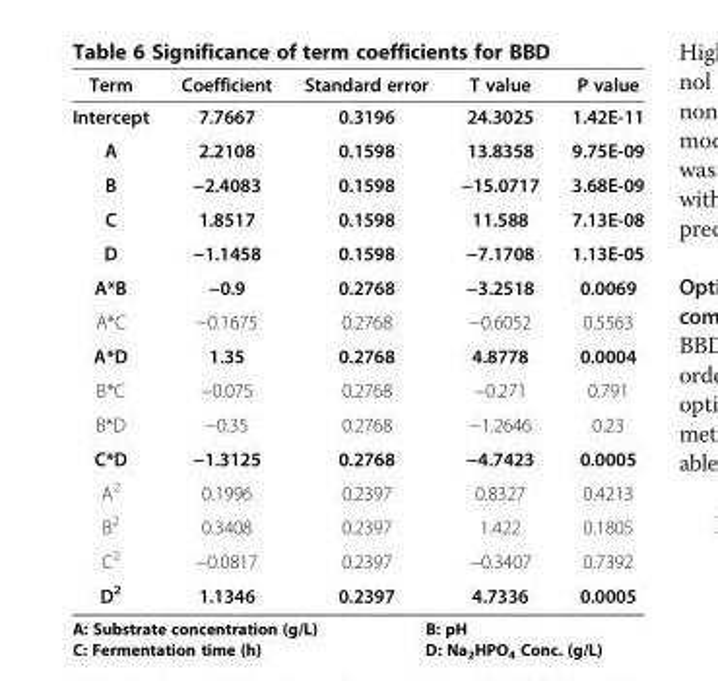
<table><thead><tr><td>Term</td><td>Coefficient</td><td>Standard error</td><td>T value</td><td>P value</td></tr></thead><tbody><tr><td>Intercept</td><td>7.7667</td><td>0.3196</td><td>24.3025</td><td>1.42E-11</td></tr><tr><td>A</td><td>2.2108</td><td>0.1598</td><td>13.8358</td><td>9.75E-09</td></tr><tr><td>B</td><td>−2.4083</td><td>0.1598</td><td>−15.0717</td><td>3.68E-09</td></tr><tr><td>C</td><td>1.8517</td><td>0.1598</td><td>11.588</td><td>7.13E-08</td></tr><tr><td>D</td><td>−1.1458</td><td>0.1598</td><td>−7.1708</td><td>1.13E-05</td></tr><tr><td>A*B</td><td>−0.9</td><td>0.2768</td><td>−3.2518</td><td>0.0069</td></tr><tr><td>A*C</td><td>−0.1675</td><td>0.2768</td><td>−0.6052</td><td>0.5563</td></tr><tr><td>A*D</td><td>1.35</td><td>0.2768</td><td>4.8778</td><td>0.0004</td></tr><tr><td>B*C</td><td>−0.075</td><td>0.2768</td><td>−0.271</td><td>0.791</td></tr><tr><td>B*D</td><td>−0.35</td><td>0.2768</td><td>−1.2646</td><td>0.23</td></tr><tr><td>C*D</td><td>−1.3125</td><td>0.2768</td><td>−4.7423</td><td>0.0005</td></tr><tr><td>A<sup>2</sup></td><td>0.1996</td><td>0.2397</td><td>0.8327</td><td>0.4213</td></tr><tr><td>B<sup>2</sup></td><td>0.3408</td><td>0.2397</td><td>1.422</td><td>0.1805</td></tr><tr><td>C<sup>2</sup></td><td>−0.0817</td><td>0.2397</td><td>−0.3407</td><td>0.7392</td></tr><tr><td>D<sup>2</sup></td><td>1.1346</td><td>0.2397</td><td>4.7336</td><td>0.0005</td></tr></tbody></table>